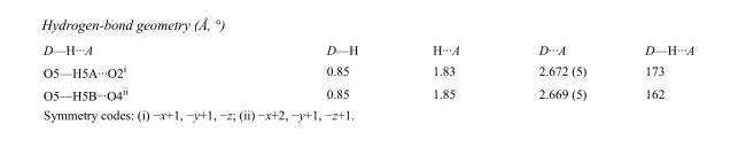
<table><tbody><tr><td>D—H···A</td><td>D—H</td><td>H···A</td><td>D···A</td><td>D—H···A</td></tr><tr><td>O5—H5A···O2<sup>i</sup></td><td>0.85</td><td>1.83</td><td>2.672 (5)</td><td>173</td></tr><tr><td>O5—H5B···O4<sup>ii</sup></td><td>0.85</td><td>1.85</td><td>2.669 (5)</td><td>162</td></tr></tbody></table>